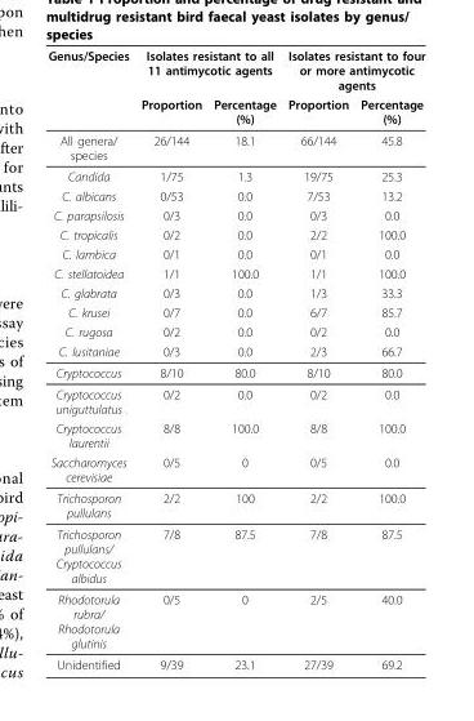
<table><thead><tr><td rowspan="2">Genus/Species</td><td colspan="2">Isolates resistant to all 11 antimycotic agents</td><td colspan="2">Isolates resistant to four or more antimycotic agents</td></tr><tr><td>Proportion</td><td>Percentage (%)</td><td>Proportion</td><td>Percentage (%)</td></tr></thead><tbody><tr><td>All genera/ species</td><td>26/144</td><td>18.1</td><td>66/144</td><td>45.8</td></tr><tr><td>Candida</td><td>1/75</td><td>1.3</td><td>19/75</td><td>25.3</td></tr><tr><td>C. albicans</td><td>0/53</td><td>0.0</td><td>7/53</td><td>13.2</td></tr><tr><td>C. parapsilosis</td><td>0/3</td><td>0.0</td><td>0/3</td><td>0.0</td></tr><tr><td>C. tropicalis</td><td>0/2</td><td>0.0</td><td>2/2</td><td>100.0</td></tr><tr><td>C. lambica</td><td>0/1</td><td>0.0</td><td>0/1</td><td>0.0</td></tr><tr><td>C. stellatoidea</td><td>1/1</td><td>100.0</td><td>1/1</td><td>100.0</td></tr><tr><td>C. glabrata</td><td>0/3</td><td>0.0</td><td>1/3</td><td>33.3</td></tr><tr><td>C. krusei</td><td>0/7</td><td>0.0</td><td>6/7</td><td>85.7</td></tr><tr><td>C. rugosa</td><td>0/2</td><td>0.0</td><td>0/2</td><td>0.0</td></tr><tr><td>C. lusitaniae</td><td>0/3</td><td>0.0</td><td>2/3</td><td>66.7</td></tr><tr><td>Cryptococcus</td><td>8/10</td><td>80.0</td><td>8/10</td><td>80.0</td></tr><tr><td>Cryptococcus uniguttulatus</td><td>0/2</td><td>0.0</td><td>0/2</td><td>0.0</td></tr><tr><td>Cryptococcus laurentii</td><td>8/8</td><td>100.0</td><td>8/8</td><td>100.0</td></tr><tr><td>Saccharomyces cerevisiae</td><td>0/5</td><td>0</td><td>0/5</td><td>0.0</td></tr><tr><td>Trichosporon pullulans</td><td>2/2</td><td>100</td><td>2/2</td><td>100.0</td></tr><tr><td>Trichosporon pullulans/ Cryptococcus albidus</td><td>7/8</td><td>87.5</td><td>7/8</td><td>87.5</td></tr><tr><td>Rhodotorula rubra/ Rhodotorula glutinis</td><td>0/5</td><td>0</td><td>2/5</td><td>40.0</td></tr><tr><td>Unidentified</td><td>9/39</td><td>23.1</td><td>27/39</td><td>69.2</td></tr></tbody></table>